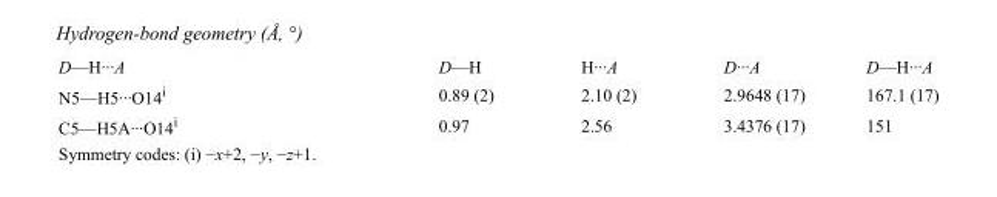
<table><tbody><tr><td>D—H···A</td><td>D—H</td><td>H···A</td><td>D···A</td><td>D—H···A</td></tr><tr><td>N5—H5···O14<sup>i</sup></td><td>0.89 (2)</td><td>2.10 (2)</td><td>2.9648 (17)</td><td>167.1 (17)</td></tr><tr><td>C5—H5A···O14<sup>i</sup></td><td>0.97</td><td>2.56</td><td>3.4376 (17)</td><td>151</td></tr></tbody></table>